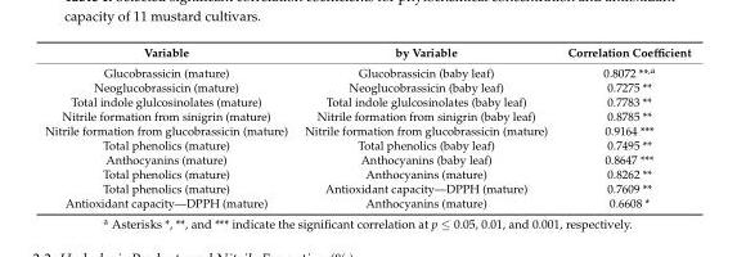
<table><thead><tr><td>Variable</td><td>by Variable</td><td>Correlation Coefficient</td></tr></thead><tbody><tr><td>Glucobrassicin (mature)</td><td>Glucobrassicin (baby leaf)</td><td>0.8072 **<sup>,a</sup></td></tr><tr><td>Neoglucobrassicin (mature)</td><td>Neoglucobrassicin (baby leaf)</td><td>0.7275 **</td></tr><tr><td>Total indole glulcosinolates (mature)</td><td>Total indole glulcosinolates (baby leaf)</td><td>0.7783 **</td></tr><tr><td>Nitrile formation from sinigrin (mature)</td><td>Nitrile formation from sinigrin (baby leaf)</td><td>0.8785 **</td></tr><tr><td>Nitrile formation from glucobrassicin (mature)</td><td>Nitrile formation from glucobrassicin (mature)</td><td>0.9164 ***</td></tr><tr><td>Total phenolics (mature)</td><td>Total phenolics (baby leaf)</td><td>0.7495 **</td></tr><tr><td>Anthocyanins (mature)</td><td>Anthocyanins (baby leaf)</td><td>0.8647 ***</td></tr><tr><td>Total phenolics (mature)</td><td>Anthocyanins (mature)</td><td>0.8262 **</td></tr><tr><td>Total phenolics (mature)</td><td>Antioxidant capacity—DPPH (mature)</td><td>0.7609 **</td></tr><tr><td>Antioxidant capacity—DPPH (mature)</td><td>Anthocyanins (mature)</td><td>0.6608 *</td></tr></tbody></table>